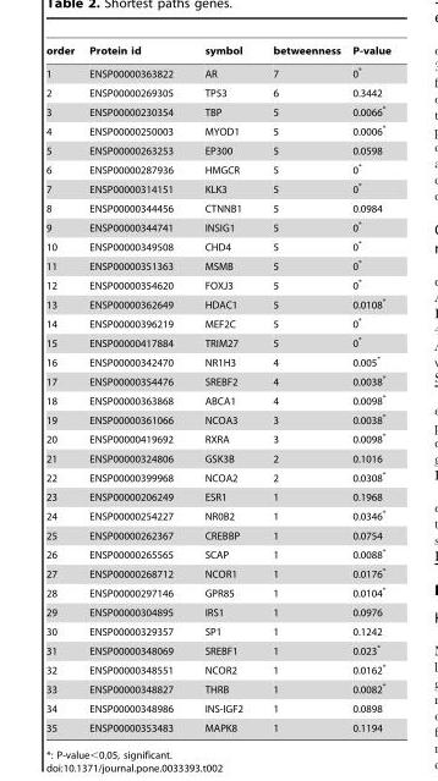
<table><thead><tr><td>order</td><td>Protein id</td><td>symbol</td><td>betweenness</td><td>P-value</td></tr></thead><tbody><tr><td>1</td><td>ENSP00000363822</td><td>AR</td><td>7</td><td>0*</td></tr><tr><td>2</td><td>ENSP00000269305</td><td>TP53</td><td>6</td><td>0.3442</td></tr><tr><td>3</td><td>ENSP00000230354</td><td>TBP</td><td>5</td><td>0.0066*</td></tr><tr><td>4</td><td>ENSP00000250003</td><td>MYOD1</td><td>5</td><td>0.0006*</td></tr><tr><td>5</td><td>ENSP00000263253</td><td>EP300</td><td>5</td><td>0.0598</td></tr><tr><td>6</td><td>ENSP00000287936</td><td>HMGCR</td><td>5</td><td>0*</td></tr><tr><td>7</td><td>ENSP00000314151</td><td>KLK3</td><td>5</td><td>0*</td></tr><tr><td>8</td><td>ENSP00000344456</td><td>CTNNB1</td><td>5</td><td>0.0984</td></tr><tr><td>9</td><td>ENSP00000344741</td><td>INSIG1</td><td>5</td><td>0*</td></tr><tr><td>10</td><td>ENSP00000349508</td><td>CHD4</td><td>5</td><td>0*</td></tr><tr><td>11</td><td>ENSP00000351363</td><td>MSMB</td><td>5</td><td>0*</td></tr><tr><td>12</td><td>ENSP00000354620</td><td>FOXJ3</td><td>5</td><td>0*</td></tr><tr><td>13</td><td>ENSP00000362649</td><td>HDAC1</td><td>5</td><td>0.0108*</td></tr><tr><td>14</td><td>ENSP00000396219</td><td>MEF2C</td><td>5</td><td>0*</td></tr><tr><td>15</td><td>ENSP00000417884</td><td>TRIM27</td><td>5</td><td>0*</td></tr><tr><td>16</td><td>ENSP00000342470</td><td>NR1H3</td><td>4</td><td>0.005*</td></tr><tr><td>17</td><td>ENSP00000354476</td><td>SREBF2</td><td>4</td><td>0.0038*</td></tr><tr><td>18</td><td>ENSP00000363868</td><td>ABCA1</td><td>4</td><td>0.0098*</td></tr><tr><td>19</td><td>ENSP00000361066</td><td>NCOA3</td><td>3</td><td>0.0038*</td></tr><tr><td>20</td><td>ENSP00000419692</td><td>RXRA</td><td>3</td><td>0.0098*</td></tr><tr><td>21</td><td>ENSP00000324806</td><td>GSK3B</td><td>2</td><td>0.1016</td></tr><tr><td>22</td><td>ENSP00000399968</td><td>NCOA2</td><td>2</td><td>0.0308*</td></tr><tr><td>23</td><td>ENSP00000206249</td><td>ESR1</td><td>1</td><td>0.1968</td></tr><tr><td>24</td><td>ENSP00000254227</td><td>NR0B2</td><td>1</td><td>0.0346*</td></tr><tr><td>25</td><td>ENSP00000262367</td><td>CREBBP</td><td>1</td><td>0.0754</td></tr><tr><td>26</td><td>ENSP00000265565</td><td>SCAP</td><td>1</td><td>0.0088*</td></tr><tr><td>27</td><td>ENSP00000268712</td><td>NCOR1</td><td>1</td><td>0.0176*</td></tr><tr><td>28</td><td>ENSP00000297146</td><td>GPR85</td><td>1</td><td>0.0104*</td></tr><tr><td>29</td><td>ENSP00000304895</td><td>IRS1</td><td>1</td><td>0.0976</td></tr><tr><td>30</td><td>ENSP00000329357</td><td>SP1</td><td>1</td><td>0.1242</td></tr><tr><td>31</td><td>ENSP00000348069</td><td>SREBF1</td><td>1</td><td>0.023*</td></tr><tr><td>32</td><td>ENSP00000348551</td><td>NCOR2</td><td>1</td><td>0.0162*</td></tr><tr><td>33</td><td>ENSP00000348827</td><td>THRB</td><td>1</td><td>0.0082*</td></tr><tr><td>34</td><td>ENSP00000348986</td><td>INS-IGF2</td><td>1</td><td>0.0898</td></tr><tr><td>35</td><td>ENSP00000353483</td><td>MAPK8</td><td>1</td><td>0.1194</td></tr></tbody></table>